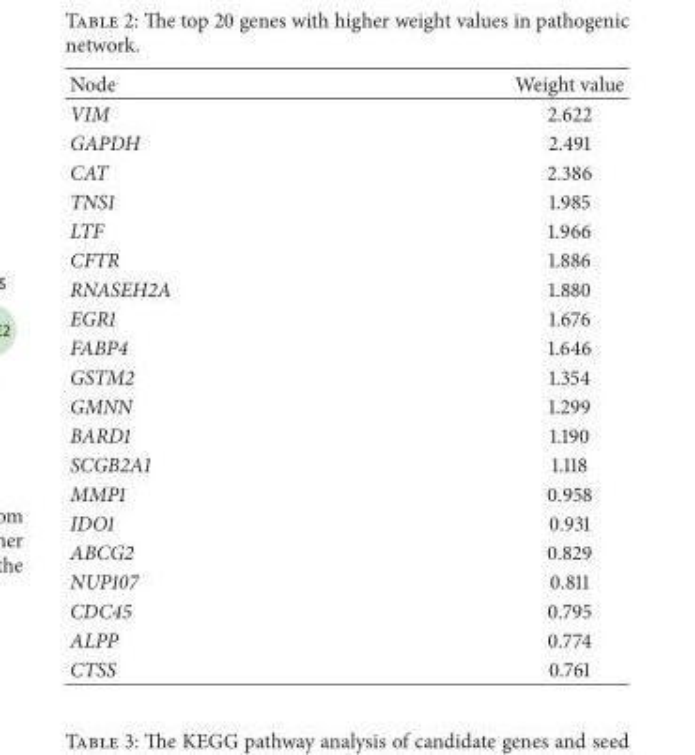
<table><thead><tr><td>Node</td><td>Weight value</td></tr></thead><tbody><tr><td>VIM</td><td>2.622</td></tr><tr><td>GAPDH</td><td>2.491</td></tr><tr><td>CAT</td><td>2.386</td></tr><tr><td>TNS1</td><td>1.985</td></tr><tr><td>LTF</td><td>1.966</td></tr><tr><td>CFTR</td><td>1.886</td></tr><tr><td>RNASEH2A</td><td>1.880</td></tr><tr><td>EGR1</td><td>1.676</td></tr><tr><td>FABP4</td><td>1.646</td></tr><tr><td>GSTM2</td><td>1.354</td></tr><tr><td>GMNN</td><td>1.299</td></tr><tr><td>BARD1</td><td>1.190</td></tr><tr><td>SCGB2A1</td><td>1.118</td></tr><tr><td>MMP1</td><td>0.958</td></tr><tr><td>IDO1</td><td>0.931</td></tr><tr><td>ABCG2</td><td>0.829</td></tr><tr><td>NUP107</td><td>0.811</td></tr><tr><td>CDC45</td><td>0.795</td></tr><tr><td>ALPP</td><td>0.774</td></tr><tr><td>CTSS</td><td>0.761</td></tr></tbody></table>